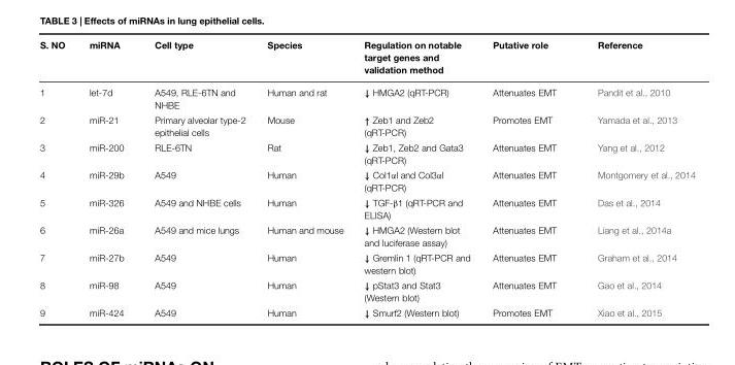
<table><thead><tr><td>S. NO</td><td>miRNA</td><td>Cell type</td><td>Species</td><td>Regulation on notable target genes and validation method</td><td>Putative role</td><td>Reference</td></tr></thead><tbody><tr><td>1</td><td>let-7d</td><td>A549, RLE-6TN and NHBE</td><td>Human and rat</td><td>↓ HMGA2 (qRT-PCR)</td><td>Attenuates EMT</td><td>Pandit et al., 2010</td></tr><tr><td>2</td><td>miR-21</td><td>Primary alveolar type-2 epithelial cells</td><td>Mouse</td><td>↑ Zeb1 and Zeb2 (qRT-PCR)</td><td>Promotes EMT</td><td>Yamada et al., 2013</td></tr><tr><td>3</td><td>miR-200</td><td>RLE-6TN</td><td>Rat</td><td>↓ Zeb1, Zeb2 and Gata3 (qRT-PCR)</td><td>Attenuates EMT</td><td>Yang et al., 2012</td></tr><tr><td>4</td><td>miR-29b</td><td>A549</td><td>Human</td><td>↓ Col1αl and Col3αl (qRT-PCR)</td><td>Attenuates EMT</td><td>Montgomery et al., 2014</td></tr><tr><td>5</td><td>miR-326</td><td>A549 and NHBE cells</td><td>Human</td><td>↓ TGF-β1 (qRT-PCR and ELISA)</td><td>Attenuates EMT</td><td>Das et al., 2014</td></tr><tr><td>6</td><td>miR-26a</td><td>A549 and mice lungs</td><td>Human and mouse</td><td>↓ HMGA2 (Western blot and luciferase assay)</td><td>Attenuates EMT</td><td>Liang et al., 2014a</td></tr><tr><td>7</td><td>miR-27b</td><td>A549</td><td>Human</td><td>↓ Gremlin 1 (qRT-PCR and western blot)</td><td>Attenuates EMT</td><td>Graham et al., 2014</td></tr><tr><td>8</td><td>miR-98</td><td>A549</td><td>Human</td><td>↓ pStat3 and Stat3 (Western blot)</td><td>Attenuates EMT</td><td>Gao et al., 2014</td></tr><tr><td>9</td><td>miR-424</td><td>A549</td><td>Human</td><td>↓ Smurf2 (Western blot)</td><td>Promotes EMT</td><td>Xiao et al., 2015</td></tr></tbody></table>